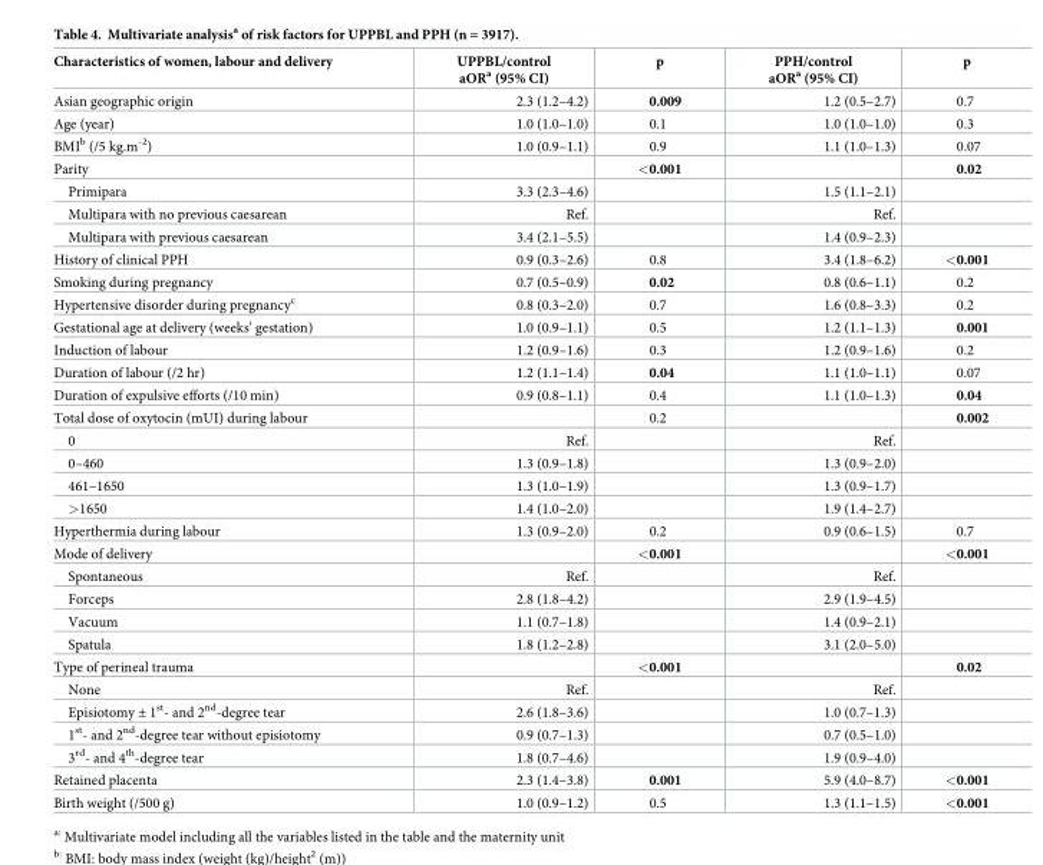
<table><thead><tr><td>Characteristics of women, labour and delivery</td><td>UPPBL/control aOR<sup>a</sup> (95% CI)</td><td>p</td><td>PPH/control aOR<sup>a</sup> (95% CI)</td><td>p</td></tr></thead><tbody><tr><td>Asian geographic origin</td><td>2.3 (1.2–4.2)</td><td>0.009</td><td>1.2 (0.5–2.7)</td><td>0.7</td></tr><tr><td>Age (year)</td><td>1.0 (1.0–1.0)</td><td>0.1</td><td>1.0 (1.0–1.0)</td><td>0.3</td></tr><tr><td>BMI<sup>b</sup> (/5 kg.m<sup>-2</sup>)</td><td>1.0 (0.9–1.1)</td><td>0.9</td><td>1.1 (1.0–1.3)</td><td>0.07</td></tr><tr><td>Parity</td><td></td><td>&lt;0.001</td><td></td><td>0.02</td></tr><tr><td>Primipara</td><td>3.3 (2.3–4.6)</td><td></td><td>1.5 (1.1–2.1)</td><td></td></tr><tr><td>Multipara with no previous caesarean</td><td>Ref.</td><td></td><td>Ref.</td><td></td></tr><tr><td>Multipara with previous caesarean</td><td>3.4 (2.1–5.5)</td><td></td><td>1.4 (0.9–2.3)</td><td></td></tr><tr><td>History of clinical PPH</td><td>0.9 (0.3–2.6)</td><td>0.8</td><td>3.4 (1.8–6.2)</td><td>&lt;0.001</td></tr><tr><td>Smoking during pregnancy</td><td>0.7 (0.5–0.9)</td><td>0.02</td><td>0.8 (0.6–1.1)</td><td>0.2</td></tr><tr><td>Hypertensive disorder during pregnancy<sup>c</sup></td><td>0.8 (0.3–2.0)</td><td>0.7</td><td>1.6 (0.8–3.3)</td><td>0.2</td></tr><tr><td>Gestational age at delivery (weeks’ gestation)</td><td>1.0 (0.9–1.1)</td><td>0.5</td><td>1.2 (1.1–1.3)</td><td>0.001</td></tr><tr><td>Induction of labour</td><td>1.2 (0.9–1.6)</td><td>0.3</td><td>1.2 (0.9–1.6)</td><td>0.2</td></tr><tr><td>Duration of labour (/2 hr)</td><td>1.2 (1.1–1.4)</td><td>0.04</td><td>1.1 (1.0–1.1)</td><td>0.07</td></tr><tr><td>Duration of expulsive efforts (/10 min)</td><td>0.9 (0.8–1.1)</td><td>0.4</td><td>1.1 (1.0–1.3)</td><td>0.04</td></tr><tr><td>Total dose of oxytocin (mUI) during labour</td><td></td><td>0.2</td><td></td><td>0.002</td></tr><tr><td>0</td><td>Ref.</td><td></td><td>Ref.</td><td></td></tr><tr><td>0–460</td><td>1.3 (0.9–1.8)</td><td></td><td>1.3 (0.9–2.0)</td><td></td></tr><tr><td>461–1650</td><td>1.3 (1.0–1.9)</td><td></td><td>1.3 (0.9–1.7)</td><td></td></tr><tr><td>&gt;1650</td><td>1.4 (1.0–2.0)</td><td></td><td>1.9 (1.4–2.7)</td><td></td></tr><tr><td>Hyperthermia during labour</td><td>1.3 (0.9–2.0)</td><td>0.2</td><td>0.9 (0.6–1.5)</td><td>0.7</td></tr><tr><td>Mode of delivery</td><td></td><td>&lt;0.001</td><td></td><td>&lt;0.001</td></tr><tr><td>Spontaneous</td><td>Ref.</td><td></td><td>Ref.</td><td></td></tr><tr><td>Forceps</td><td>2.8 (1.8–4.2)</td><td></td><td>2.9 (1.9–4.5)</td><td></td></tr><tr><td>Vacuum</td><td>1.1 (0.7–1.8)</td><td></td><td>1.4 (0.9–2.1)</td><td></td></tr><tr><td>Spatula</td><td>1.8 (1.2–2.8)</td><td></td><td>3.1 (2.0–5.0)</td><td></td></tr><tr><td>Type of perineal trauma</td><td></td><td>&lt;0.001</td><td></td><td>0.02</td></tr><tr><td>None</td><td>Ref.</td><td></td><td>Ref.</td><td></td></tr><tr><td>Episiotomy ± 1<sup>st</sup>- and 2<sup>nd</sup>-degree tear</td><td>2.6 (1.8–3.6)</td><td></td><td>1.0 (0.7–1.3)</td><td></td></tr><tr><td>1<sup>st</sup>- and 2<sup>nd</sup>-degree tear without episiotomy</td><td>0.9 (0.7–1.3)</td><td></td><td>0.7 (0.5–1.0)</td><td></td></tr><tr><td>3<sup>rd</sup>- and 4<sup>th</sup>-degree tear</td><td>1.8 (0.7–4.6)</td><td></td><td>1.9 (0.9–4.0)</td><td></td></tr><tr><td>Retained placenta</td><td>2.3 (1.4–3.8)</td><td>0.001</td><td>5.9 (4.0–8.7)</td><td>&lt;0.001</td></tr><tr><td>Birth weight (/500 g)</td><td>1.0 (0.9–1.2)</td><td>0.5</td><td>1.3 (1.1–1.5)</td><td>&lt;0.001</td></tr></tbody></table>